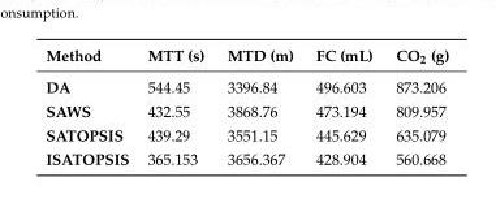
<table><thead><tr><td>Method</td><td>MTT (s)</td><td>MTD (m)</td><td>FC (mL)</td><td>CO<sub>2</sub> (g)</td></tr></thead><tbody><tr><td>DA</td><td>544.45</td><td>3396.84</td><td>496.603</td><td>873.206</td></tr><tr><td>SAWS</td><td>432.55</td><td>3868.76</td><td>473.194</td><td>809.957</td></tr><tr><td>SATOPSIS</td><td>439.29</td><td>3551.15</td><td>445.629</td><td>635.079</td></tr><tr><td>ISATOPSIS</td><td>365.153</td><td>3656.367</td><td>428.904</td><td>560.668</td></tr></tbody></table>